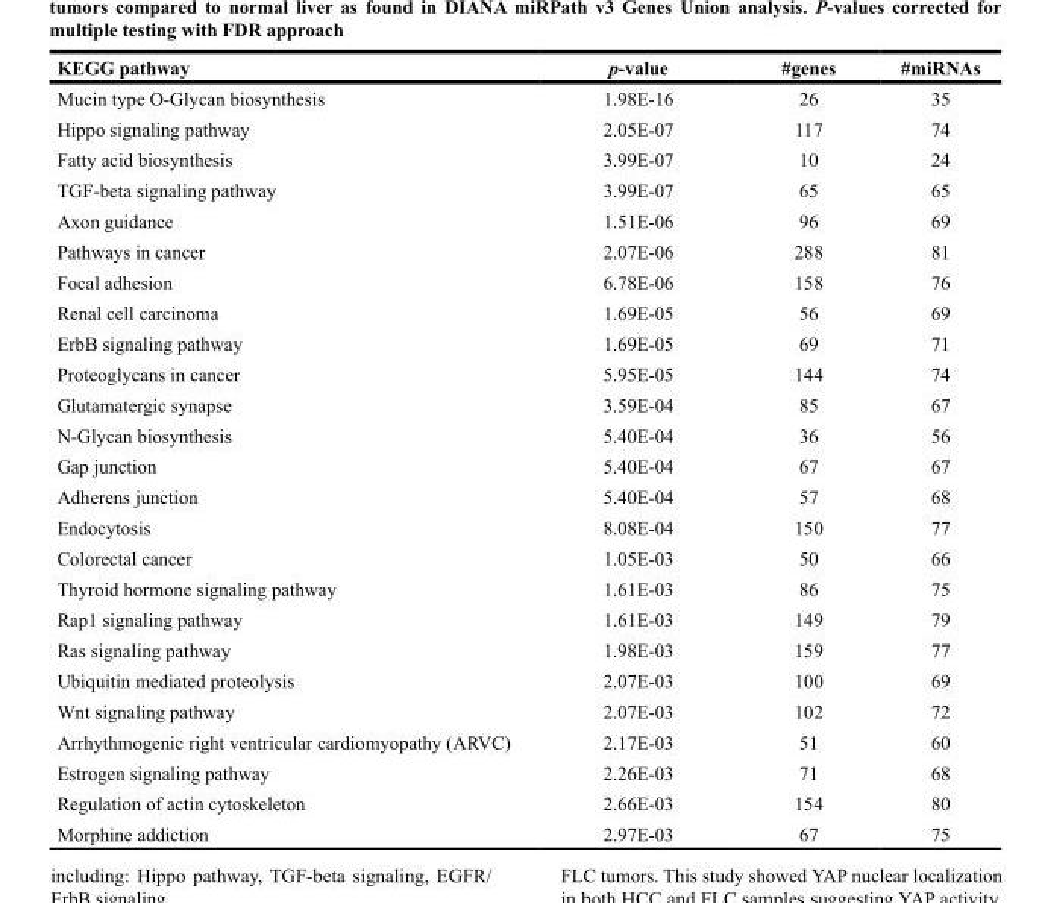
<table><thead><tr><td>KEGG pathway</td><td>p-value</td><td>#genes</td><td>#miRNAs</td></tr></thead><tbody><tr><td>Mucin type O-Glycan biosynthesis</td><td>1.98E-16</td><td>26</td><td>35</td></tr><tr><td>Hippo signaling pathway</td><td>2.05E-07</td><td>117</td><td>74</td></tr><tr><td>Fatty acid biosynthesis</td><td>3.99E-07</td><td>10</td><td>24</td></tr><tr><td>TGF-beta signaling pathway</td><td>3.99E-07</td><td>65</td><td>65</td></tr><tr><td>Axon guidance</td><td>1.51E-06</td><td>96</td><td>69</td></tr><tr><td>Pathways in cancer</td><td>2.07E-06</td><td>288</td><td>81</td></tr><tr><td>Focal adhesion</td><td>6.78E-06</td><td>158</td><td>76</td></tr><tr><td>Renal cell carcinoma</td><td>1.69E-05</td><td>56</td><td>69</td></tr><tr><td>ErbB signaling pathway</td><td>1.69E-05</td><td>69</td><td>71</td></tr><tr><td>Proteoglycans in cancer</td><td>5.95E-05</td><td>144</td><td>74</td></tr><tr><td>Glutamatergic synapse</td><td>3.59E-04</td><td>85</td><td>67</td></tr><tr><td>N-Glycan biosynthesis</td><td>5.40E-04</td><td>36</td><td>56</td></tr><tr><td>Gap junction</td><td>5.40E-04</td><td>67</td><td>67</td></tr><tr><td>Adherens junction</td><td>5.40E-04</td><td>57</td><td>68</td></tr><tr><td>Endocytosis</td><td>8.08E-04</td><td>150</td><td>77</td></tr><tr><td>Colorectal cancer</td><td>1.05E-03</td><td>50</td><td>66</td></tr><tr><td>Thyroid hormone signaling pathway</td><td>1.61E-03</td><td>86</td><td>75</td></tr><tr><td>Rap1 signaling pathway</td><td>1.61E-03</td><td>149</td><td>79</td></tr><tr><td>Ras signaling pathway</td><td>1.98E-03</td><td>159</td><td>77</td></tr><tr><td>Ubiquitin mediated proteolysis</td><td>2.07E-03</td><td>100</td><td>69</td></tr><tr><td>Wnt signaling pathway</td><td>2.07E-03</td><td>102</td><td>72</td></tr><tr><td>Arrhythmogenic right ventricular cardiomyopathy (ARVC)</td><td>2.17E-03</td><td>51</td><td>60</td></tr><tr><td>Estrogen signaling pathway</td><td>2.26E-03</td><td>71</td><td>68</td></tr><tr><td>Regulation of actin cytoskeleton</td><td>2.66E-03</td><td>154</td><td>80</td></tr><tr><td>Morphine addiction</td><td>2.97E-03</td><td>67</td><td>75</td></tr></tbody></table>